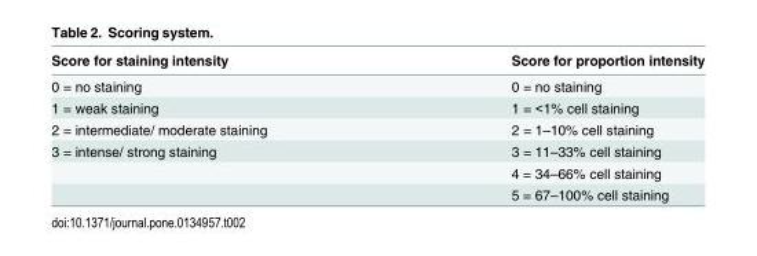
<table><thead><tr><td>Score for staining intensity</td><td>Score for proportion intensity</td></tr></thead><tbody><tr><td>0 = no staining</td><td>0 = no staining</td></tr><tr><td>1 = weak staining</td><td>1 = &lt;1% cell staining</td></tr><tr><td>2 = intermediate/ moderate staining</td><td>2 = 1–10% cell staining</td></tr><tr><td rowspan="3">3 = intense/ strong staining</td><td>3 = 11–33% cell staining</td></tr><tr><td>4 = 34–66% cell staining</td></tr><tr><td>5 = 67–100% cell staining</td></tr></tbody></table>